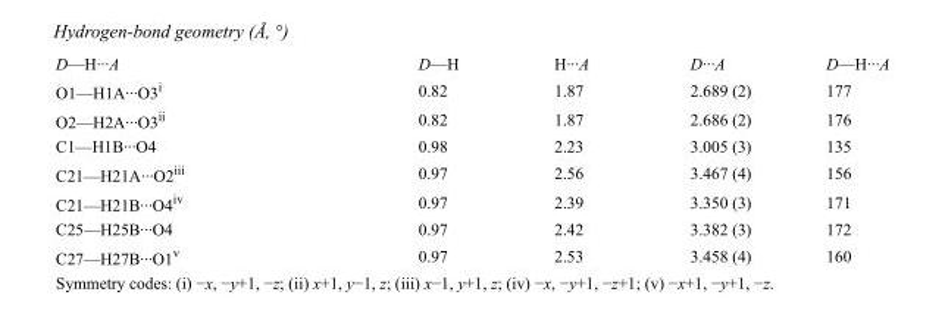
<table><tbody><tr><td>D—H···A</td><td>D—H</td><td>H···A</td><td>D···A</td><td>D—H···A</td></tr><tr><td>O1—H1A···O3<sup>i</sup></td><td>0.82</td><td>1.87</td><td>2.689 (2)</td><td>177</td></tr><tr><td>O2—H2A···O3<sup>ii</sup></td><td>0.82</td><td>1.87</td><td>2.686 (2)</td><td>176</td></tr><tr><td>C1—H1B···O4</td><td>0.98</td><td>2.23</td><td>3.005 (3)</td><td>135</td></tr><tr><td>C21—H21A···O2<sup>iii</sup></td><td>0.97</td><td>2.56</td><td>3.467 (4)</td><td>156</td></tr><tr><td>C21—H21B···O4<sup>iv</sup></td><td>0.97</td><td>2.39</td><td>3.350 (3)</td><td>171</td></tr><tr><td>C25—H25B···O4</td><td>0.97</td><td>2.42</td><td>3.382 (3)</td><td>172</td></tr><tr><td>C27—H27B···O1<sup>v</sup></td><td>0.97</td><td>2.53</td><td>3.458 (4)</td><td>160</td></tr></tbody></table>